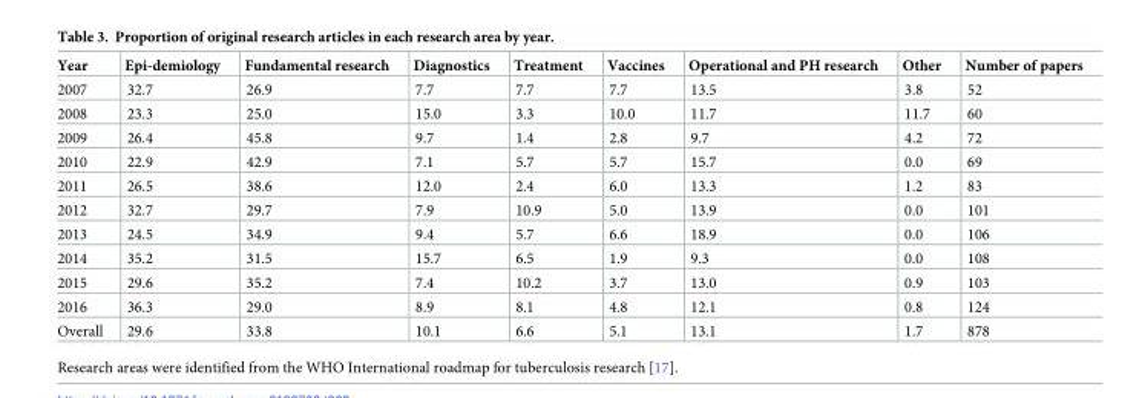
<table><thead><tr><td>Year</td><td>Epi-demiology</td><td>Fundamental research</td><td>Diagnostics</td><td>Treatment</td><td>Vaccines</td><td>Operational and PH research</td><td>Other</td><td>Number of papers</td></tr></thead><tbody><tr><td>2007</td><td>32.7</td><td>26.9</td><td>7.7</td><td>7.7</td><td>7.7</td><td>13.5</td><td>3.8</td><td>52</td></tr><tr><td>2008</td><td>23.3</td><td>25.0</td><td>15.0</td><td>3.3</td><td>10.0</td><td>11.7</td><td>11.7</td><td>60</td></tr><tr><td>2009</td><td>26.4</td><td>45.8</td><td>9.7</td><td>1.4</td><td>2.8</td><td>9.7</td><td>4.2</td><td>72</td></tr><tr><td>2010</td><td>22.9</td><td>42.9</td><td>7.1</td><td>5.7</td><td>5.7</td><td>15.7</td><td>0.0</td><td>69</td></tr><tr><td>2011</td><td>26.5</td><td>38.6</td><td>12.0</td><td>2.4</td><td>6.0</td><td>13.3</td><td>1.2</td><td>83</td></tr><tr><td>2012</td><td>32.7</td><td>29.7</td><td>7.9</td><td>10.9</td><td>5.0</td><td>13.9</td><td>0.0</td><td>101</td></tr><tr><td>2013</td><td>24.5</td><td>34.9</td><td>9.4</td><td>5.7</td><td>6.6</td><td>18.9</td><td>0.0</td><td>106</td></tr><tr><td>2014</td><td>35.2</td><td>31.5</td><td>15.7</td><td>6.5</td><td>1.9</td><td>9.3</td><td>0.0</td><td>108</td></tr><tr><td>2015</td><td>29.6</td><td>35.2</td><td>7.4</td><td>10.2</td><td>3.7</td><td>13.0</td><td>0.9</td><td>103</td></tr><tr><td>2016</td><td>36.3</td><td>29.0</td><td>8.9</td><td>8.1</td><td>4.8</td><td>12.1</td><td>0.8</td><td>124</td></tr><tr><td>Overall</td><td>29.6</td><td>33.8</td><td>10.1</td><td>6.6</td><td>5.1</td><td>13.1</td><td>1.7</td><td>878</td></tr></tbody></table>